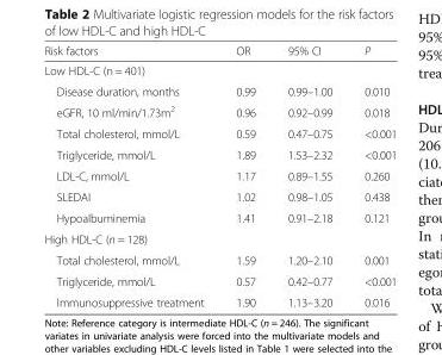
<table><thead><tr><td>Risk factors</td><td>OR</td><td>95% CI</td><td>P</td></tr></thead><tbody><tr><td colspan="4">Low HDL-C (n = 401)</td></tr><tr><td>Disease duration, months</td><td>0.99</td><td>0.99–1.00</td><td>0.010</td></tr><tr><td>eGFR, 10 ml/min/1.73m<sup>2</sup></td><td>0.96</td><td>0.92–0.99</td><td>0.018</td></tr><tr><td>Total cholesterol, mmol/L</td><td>0.59</td><td>0.47–0.75</td><td>&lt;0.001</td></tr><tr><td>Triglyceride, mmol/L</td><td>1.89</td><td>1.53–2.32</td><td>&lt;0.001</td></tr><tr><td>LDL-C, mmol/L</td><td>1.17</td><td>0.89–1.55</td><td>0.260</td></tr><tr><td>SLEDAI</td><td>1.02</td><td>0.98–1.05</td><td>0.438</td></tr><tr><td>Hypoalbuminemia</td><td>1.41</td><td>0.91–2.18</td><td>0.121</td></tr><tr><td colspan="4">High HDL-C (n = 128)</td></tr><tr><td>Total cholesterol, mmol/L</td><td>1.59</td><td>1.20–2.10</td><td>0.001</td></tr><tr><td>Triglyceride, mmol/L</td><td>0.57</td><td>0.42–0.77</td><td>&lt;0.001</td></tr><tr><td>Immunosuppressive treatment</td><td>1.90</td><td>1.13–3.20</td><td>0.016</td></tr></tbody></table>